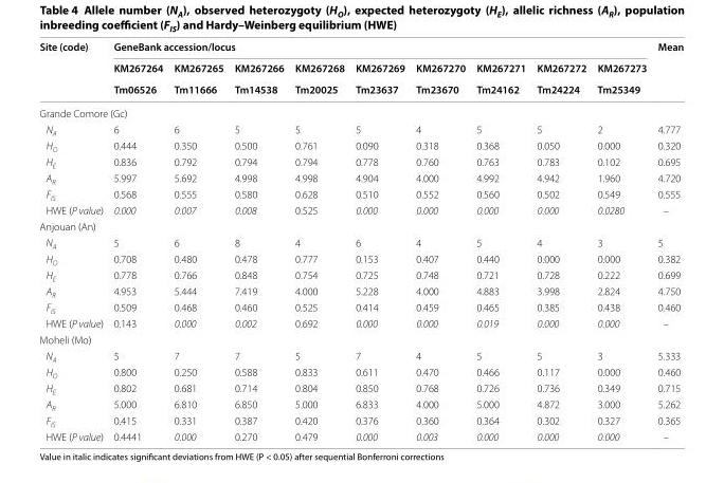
<table><thead><tr><td rowspan="3">Site (code)</td><td colspan="9">GeneBank accession/locus</td><td rowspan="3">Mean</td></tr><tr><td rowspan="2">KM267264 Tm06526</td><td rowspan="2">KM267265 Tm11666</td><td rowspan="2">KM267266 Tm14538</td><td rowspan="2">KM267268 Tm20025</td><td rowspan="2">KM267269 Tm23637</td><td rowspan="2">KM267270 Tm23670</td><td rowspan="2">KM267271 Tm24162</td><td rowspan="2">KM267272 Tm24224</td><td rowspan="2">KM267273 Tm25349</td></tr><tr></tr></thead><tbody><tr><td colspan="11">Grande Comore (Gc)</td></tr><tr><td>N<sub>A</sub></td><td>6</td><td>6</td><td>5</td><td>5</td><td>5</td><td>4</td><td>5</td><td>5</td><td>2</td><td>4.777</td></tr><tr><td>H<sub>O</sub></td><td>0.444</td><td>0.350</td><td>0.500</td><td>0.761</td><td>0.090</td><td>0.318</td><td>0.368</td><td>0.050</td><td>0.000</td><td>0.320</td></tr><tr><td>H<sub>E</sub></td><td>0.836</td><td>0.792</td><td>0.794</td><td>0.794</td><td>0.778</td><td>0.760</td><td>0.763</td><td>0.783</td><td>0.102</td><td>0.695</td></tr><tr><td>A<sub>R</sub></td><td>5.997</td><td>5.692</td><td>4.998</td><td>4.998</td><td>4.904</td><td>4.000</td><td>4.992</td><td>4.942</td><td>1.960</td><td>4.720</td></tr><tr><td>F<sub>IS</sub></td><td>0.568</td><td>0.555</td><td>0.580</td><td>0.628</td><td>0.510</td><td>0.552</td><td>0.560</td><td>0.502</td><td>0.549</td><td>0.555</td></tr><tr><td>HWE (P value)</td><td>0.000</td><td>0.007</td><td>0.008</td><td>0.525</td><td>0.000</td><td>0.000</td><td>0.000</td><td>0.000</td><td>0.0280</td><td>–</td></tr><tr><td colspan="11">Anjouan (An)</td></tr><tr><td>N<sub>A</sub></td><td>5</td><td>6</td><td>8</td><td>4</td><td>6</td><td>4</td><td>5</td><td>4</td><td>3</td><td>5</td></tr><tr><td>H<sub>O</sub></td><td>0.708</td><td>0.480</td><td>0.478</td><td>0.777</td><td>0.153</td><td>0.407</td><td>0.440</td><td>0.000</td><td>0.000</td><td>0.382</td></tr><tr><td>H<sub>E</sub></td><td>0.778</td><td>0.766</td><td>0.848</td><td>0.754</td><td>0.725</td><td>0.748</td><td>0.721</td><td>0.728</td><td>0.222</td><td>0.699</td></tr><tr><td>A<sub>R</sub></td><td>4.953</td><td>5.444</td><td>7.419</td><td>4.000</td><td>5.228</td><td>4.000</td><td>4.883</td><td>3.998</td><td>2.824</td><td>4.750</td></tr><tr><td>F<sub>IS</sub></td><td>0.509</td><td>0.468</td><td>0.460</td><td>0.525</td><td>0.414</td><td>0.459</td><td>0.465</td><td>0.385</td><td>0.438</td><td>0.460</td></tr><tr><td>HWE (P value)</td><td>0.143</td><td>0.000</td><td>0.002</td><td>0.692</td><td>0.000</td><td>0.000</td><td>0.019</td><td>0.000</td><td>0.000</td><td>–</td></tr><tr><td colspan="11">Moheli (Mo)</td></tr><tr><td>N<sub>A</sub></td><td>5</td><td>7</td><td>7</td><td>5</td><td>7</td><td>4</td><td>5</td><td>5</td><td>3</td><td>5.333</td></tr><tr><td>H<sub>O</sub></td><td>0.800</td><td>0.250</td><td>0.588</td><td>0.833</td><td>0.611</td><td>0.470</td><td>0.466</td><td>0.117</td><td>0.000</td><td>0.460</td></tr><tr><td>H<sub>E</sub></td><td>0.802</td><td>0.681</td><td>0.714</td><td>0.804</td><td>0.850</td><td>0.768</td><td>0.726</td><td>0.736</td><td>0.349</td><td>0.715</td></tr><tr><td>A<sub>R</sub></td><td>5.000</td><td>6.810</td><td>6.850</td><td>5.000</td><td>6.833</td><td>4.000</td><td>5.000</td><td>4.872</td><td>3.000</td><td>5.262</td></tr><tr><td>F<sub>IS</sub></td><td>0.415</td><td>0.331</td><td>0.387</td><td>0.420</td><td>0.376</td><td>0.360</td><td>0.364</td><td>0.302</td><td>0.327</td><td>0.365</td></tr><tr><td>HWE (P value)</td><td>0.4441</td><td>0.000</td><td>0.270</td><td>0.479</td><td>0.000</td><td>0.003</td><td>0.000</td><td>0.000</td><td>0.000</td><td>–</td></tr></tbody></table>